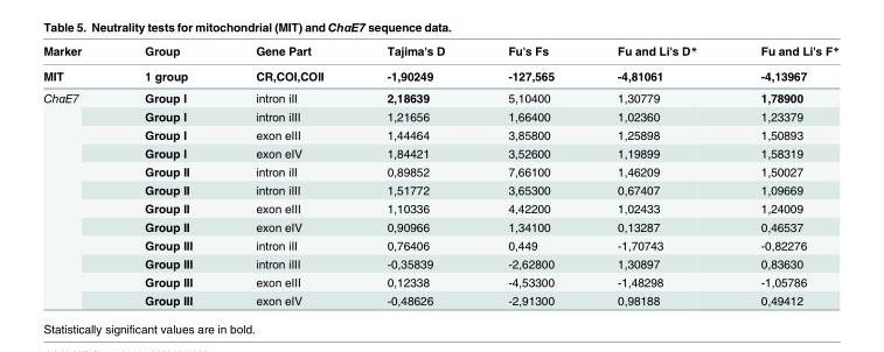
<table><thead><tr><td rowspan="2">Marker MIT</td><td rowspan="2">Group 1 group</td><td rowspan="2">Gene Part CR,COI,COII</td><td rowspan="2">Tajima&#x27;s D -1,90249</td><td rowspan="2">Fu&#x27;s Fs -127,565</td><td rowspan="2">Fu and Li&#x27;s D* -4,81061</td><td rowspan="2">Fu and Li&#x27;s F* -4,13967</td></tr><tr></tr></thead><tbody><tr><td rowspan="12">ChαE7</td><td>Group I</td><td>intron iII</td><td>2,18639</td><td>5,10400</td><td>1,30779</td><td>1,78900</td></tr><tr><td>Group I</td><td>intron iIII</td><td>1,21656</td><td>1,66400</td><td>1,02360</td><td>1,23379</td></tr><tr><td>Group I</td><td>exon eIII</td><td>1,44464</td><td>3,85800</td><td>1,25898</td><td>1,50893</td></tr><tr><td>Group I</td><td>exon eIV</td><td>1,84421</td><td>3,52600</td><td>1,19899</td><td>1,58319</td></tr><tr><td>Group II</td><td>intron iII</td><td>0,89852</td><td>7,66100</td><td>1,46209</td><td>1,50027</td></tr><tr><td>Group II</td><td>intron iIII</td><td>1,51772</td><td>3,65300</td><td>0,67407</td><td>1,09669</td></tr><tr><td>Group II</td><td>exon eIII</td><td>1,10336</td><td>4,42200</td><td>1,02433</td><td>1,24009</td></tr><tr><td>Group II</td><td>exon eIV</td><td>0,90966</td><td>1,34100</td><td>0,13287</td><td>0,46537</td></tr><tr><td>Group III</td><td>intron iII</td><td>0,76406</td><td>0,449</td><td>-1,70743</td><td>-0,82276</td></tr><tr><td>Group III</td><td>intron iIII</td><td>-0,35839</td><td>-2,62800</td><td>1,30897</td><td>0,83630</td></tr><tr><td>Group III</td><td>exon eIII</td><td>0,12338</td><td>-4,53300</td><td>-1,48298</td><td>-1,05786</td></tr><tr><td>Group III</td><td>exon eIV</td><td>-0,48626</td><td>-2,91300</td><td>0,98188</td><td>0,49412</td></tr></tbody></table>